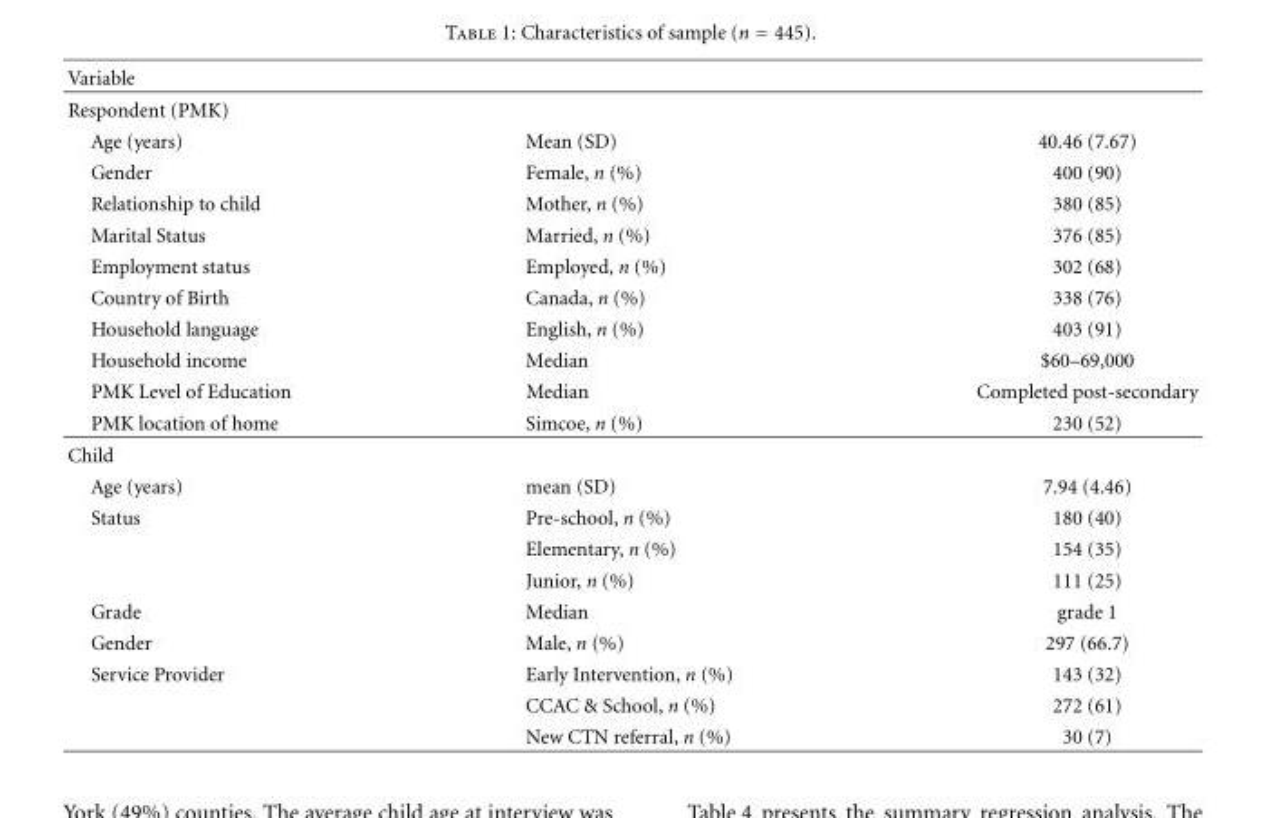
<table><thead><tr><td>Variable</td><td></td><td></td></tr></thead><tbody><tr><td colspan="3">Respondent (PMK)</td></tr><tr><td>Age (years)</td><td>Mean (SD)</td><td>40.46 (7.67)</td></tr><tr><td>Gender</td><td>Female, n (%)</td><td>400 (90)</td></tr><tr><td>Relationship to child</td><td>Mother, n (%)</td><td>380 (85)</td></tr><tr><td>Marital Status</td><td>Married, n (%)</td><td>376 (85)</td></tr><tr><td>Employment status</td><td>Employed, n (%)</td><td>302 (68)</td></tr><tr><td>Country of Birth</td><td>Canada, n (%)</td><td>338 (76)</td></tr><tr><td>Household language</td><td>English, n (%)</td><td>403 (91)</td></tr><tr><td>Household income</td><td>Median</td><td>$60–69,000</td></tr><tr><td>PMK Level of Education</td><td>Median</td><td>Completed post-secondary</td></tr><tr><td>PMK location of home</td><td>Simcoe, n (%)</td><td>230 (52)</td></tr><tr><td colspan="3">Child</td></tr><tr><td>Age (years)</td><td>mean (SD)</td><td>7.94 (4.46)</td></tr><tr><td rowspan="3">Status</td><td>Pre-school, n (%)</td><td>180 (40)</td></tr><tr><td>Elementary, n (%)</td><td>154 (35)</td></tr><tr><td>Junior, n (%)</td><td>111 (25)</td></tr><tr><td>Grade</td><td>Median</td><td>grade 1</td></tr><tr><td>Gender</td><td>Male, n (%)</td><td>297 (66.7)</td></tr><tr><td rowspan="3">Service Provider</td><td>Early Intervention, n (%)</td><td>143 (32)</td></tr><tr><td>CCAC &amp; School, n (%)</td><td>272 (61)</td></tr><tr><td>New CTN referral, n (%)</td><td>30 (7)</td></tr></tbody></table>